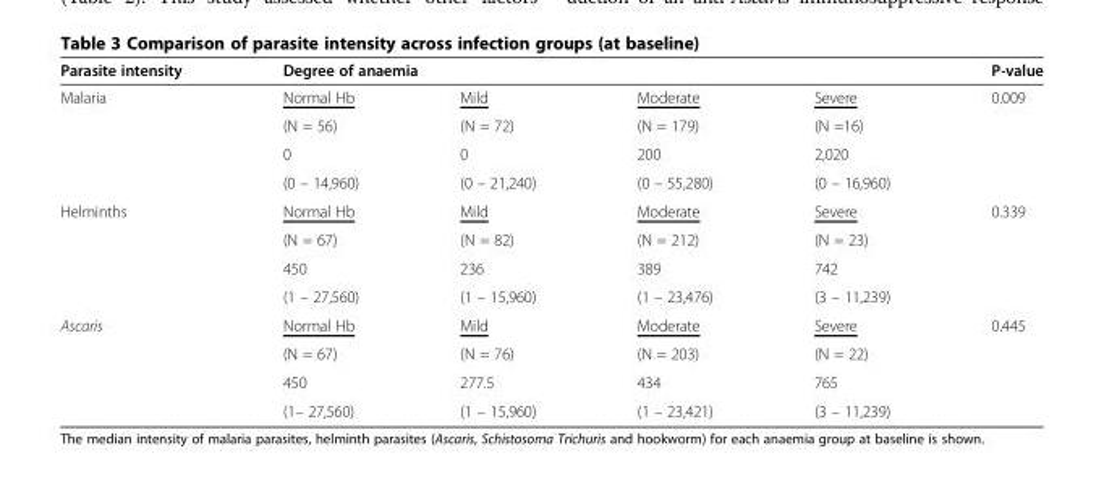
<table><thead><tr><td rowspan="2">Parasite intensity Malaria</td><td colspan="4">Degree of anaemia</td><td rowspan="2">P-value 0.009</td></tr><tr><td>Normal Hb</td><td>Mild</td><td>Moderate</td><td>Severe</td></tr></thead><tbody><tr><td></td><td>(N = 56)</td><td>(N = 72)</td><td>(N = 179)</td><td>(N =16)</td><td></td></tr><tr><td></td><td>0</td><td>0</td><td>200</td><td>2,020</td><td></td></tr><tr><td></td><td>(0 – 14,960)</td><td>(0 – 21,240)</td><td>(0 – 55,280)</td><td>(0 – 16,960)</td><td></td></tr><tr><td rowspan="4">Helminths</td><td>Normal Hb</td><td>Mild</td><td>Moderate</td><td>Severe</td><td>0.339</td></tr><tr><td>(N = 67)</td><td>(N = 82)</td><td>(N = 212)</td><td>(N = 23)</td><td></td></tr><tr><td>450</td><td>236</td><td>389</td><td>742</td><td></td></tr><tr><td>(1 – 27,560)</td><td>(1 – 15,960)</td><td>(1 – 23,476)</td><td>(3 – 11,239)</td><td></td></tr><tr><td rowspan="4">Ascaris</td><td>Normal Hb</td><td>Mild</td><td>Moderate</td><td>Severe</td><td>0.445</td></tr><tr><td>(N = 67)</td><td>(N = 76)</td><td>(N = 203)</td><td>(N = 22)</td><td></td></tr><tr><td>450</td><td>277.5</td><td>434</td><td>765</td><td></td></tr><tr><td>(1– 27,560)</td><td>(1 – 15,960)</td><td>(1 – 23,421)</td><td>(3 – 11,239)</td><td></td></tr></tbody></table>